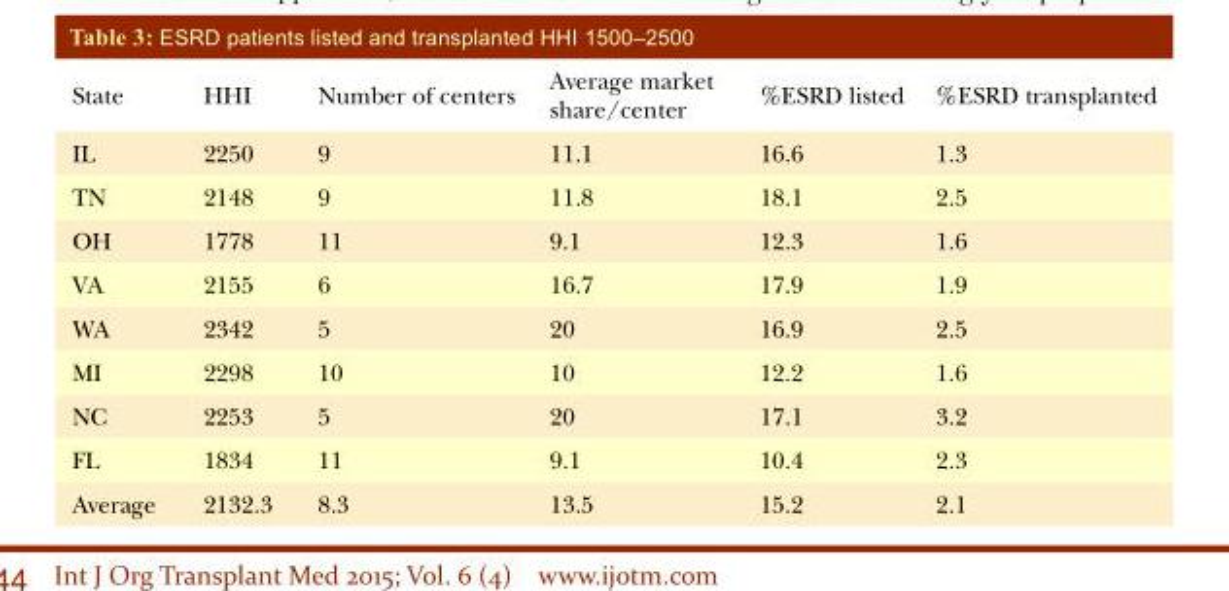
<table><thead><tr><td>State</td><td>HHI</td><td>Number of centers</td><td>Average market share/center</td><td>%ESRD listed</td><td>%ESRD transplanted</td></tr></thead><tbody><tr><td>IL</td><td>2250</td><td>9</td><td>11.1</td><td>16.6</td><td>1.3</td></tr><tr><td>TN</td><td>2148</td><td>9</td><td>11.8</td><td>18.1</td><td>2.5</td></tr><tr><td>OH</td><td>1778</td><td>11</td><td>9.1</td><td>12.3</td><td>1.6</td></tr><tr><td>VA</td><td>2155</td><td>6</td><td>16.7</td><td>17.9</td><td>1.9</td></tr><tr><td>WA</td><td>2342</td><td>5</td><td>20</td><td>16.9</td><td>2.5</td></tr><tr><td>MI</td><td>2298</td><td>10</td><td>10</td><td>12.2</td><td>1.6</td></tr><tr><td>NC</td><td>2253</td><td>5</td><td>20</td><td>17.1</td><td>3.2</td></tr><tr><td>FL</td><td>1834</td><td>11</td><td>9.1</td><td>10.4</td><td>2.3</td></tr><tr><td>Average</td><td>2132.3</td><td>8.3</td><td>13.5</td><td>15.2</td><td>2.1</td></tr></tbody></table>